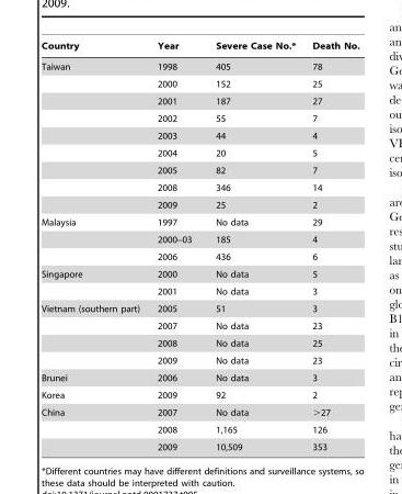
<table><thead><tr><td>Country</td><td>Year</td><td>Severe Case No.*</td><td>Death No.</td></tr></thead><tbody><tr><td rowspan="9">Taiwan</td><td>1998</td><td>405</td><td>78</td></tr><tr><td>2000</td><td>152</td><td>25</td></tr><tr><td>2001</td><td>187</td><td>27</td></tr><tr><td>2002</td><td>55</td><td>7</td></tr><tr><td>2003</td><td>44</td><td>4</td></tr><tr><td>2004</td><td>20</td><td>5</td></tr><tr><td>2005</td><td>82</td><td>7</td></tr><tr><td>2008</td><td>346</td><td>14</td></tr><tr><td>2009</td><td>25</td><td>2</td></tr><tr><td rowspan="3">Malaysia</td><td>1997</td><td>No data</td><td>29</td></tr><tr><td>2000–03</td><td>185</td><td>4</td></tr><tr><td>2006</td><td>436</td><td>6</td></tr><tr><td rowspan="2">Singapore</td><td>2000</td><td>No data</td><td>5</td></tr><tr><td>2001</td><td>No data</td><td>3</td></tr><tr><td rowspan="4">Vietnam (southern part)</td><td>2005</td><td>51</td><td>3</td></tr><tr><td>2007</td><td>No data</td><td>23</td></tr><tr><td>2008</td><td>No data</td><td>25</td></tr><tr><td>2009</td><td>No data</td><td>23</td></tr><tr><td>Brunei</td><td>2006</td><td>No data</td><td>3</td></tr><tr><td>Korea</td><td>2009</td><td>92</td><td>2</td></tr><tr><td rowspan="3">China</td><td>2007</td><td>No data</td><td>&gt;27</td></tr><tr><td>2008</td><td>1,165</td><td>126</td></tr><tr><td>2009</td><td>10,509</td><td>353</td></tr></tbody></table>